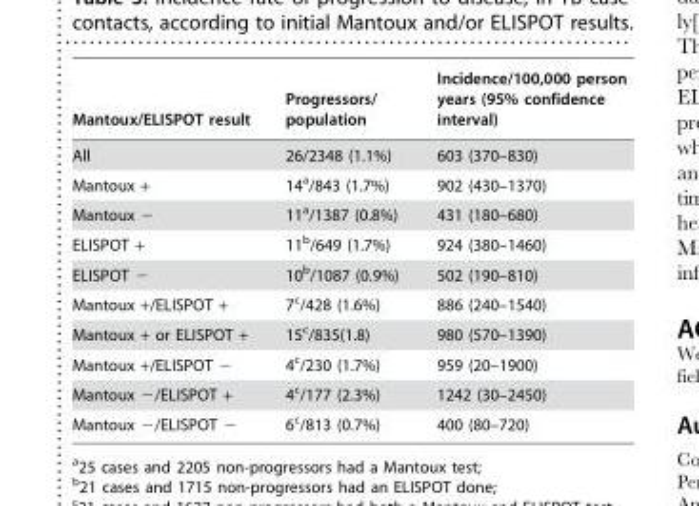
<table><thead><tr><td>Mantoux/ELISPOT result</td><td>Progressors/ population</td><td>Incidence/100,000 person years (95% confidence interval)</td></tr></thead><tbody><tr><td>All</td><td>26/2348 (1.1%)</td><td>603 (370–830)</td></tr><tr><td>Mantoux +</td><td>14<sup>a</sup>/843 (1.7%)</td><td>902 (430–1370)</td></tr><tr><td>Mantoux −</td><td>11<sup>a</sup>/1387 (0.8%)</td><td>431 (180–680)</td></tr><tr><td>ELISPOT +</td><td>11<sup>b</sup>/649 (1.7%)</td><td>924 (380–1460)</td></tr><tr><td>ELISPOT −</td><td>10<sup>b</sup>/1087 (0.9%)</td><td>502 (190–810)</td></tr><tr><td>Mantoux +/ELISPOT +</td><td>7<sup>c</sup>/428 (1.6%)</td><td>886 (240–1540)</td></tr><tr><td>Mantoux + or ELISPOT +</td><td>15<sup>c</sup>/835(1.8)</td><td>980 (570–1390)</td></tr><tr><td>Mantoux +/ELISPOT −</td><td>4<sup>c</sup>/230 (1.7%)</td><td>959 (20–1900)</td></tr><tr><td>Mantoux −/ELISPOT +</td><td>4<sup>c</sup>/177 (2.3%)</td><td>1242 (30–2450)</td></tr><tr><td>Mantoux −/ELISPOT −</td><td>6<sup>c</sup>/813 (0.7%)</td><td>400 (80–720)</td></tr></tbody></table>